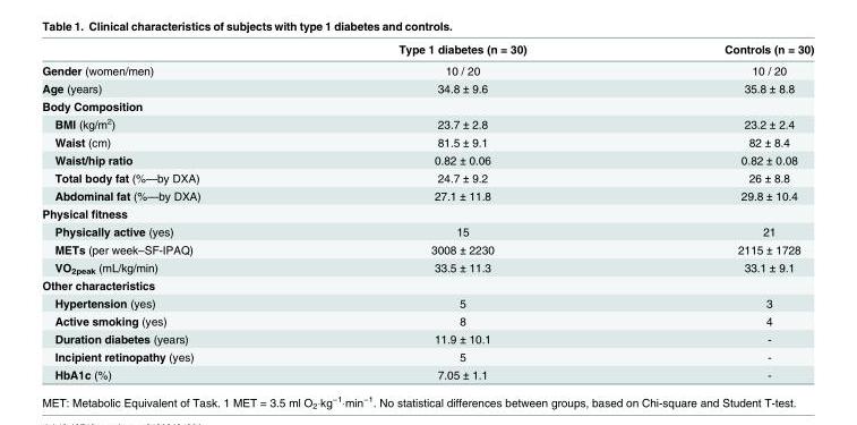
<table><thead><tr><td></td><td>Type 1 diabetes (n = 30)</td><td>Controls (n = 30)</td></tr></thead><tbody><tr><td>Gender (women/men)</td><td>10 / 20</td><td>10 / 20</td></tr><tr><td>Age (years)</td><td>34.8 ± 9.6</td><td>35.8 ± 8.8</td></tr><tr><td colspan="3">Body Composition</td></tr><tr><td>BMI (kg/m<sup>2</sup>)</td><td>23.7 ± 2.8</td><td>23.2 ± 2.4</td></tr><tr><td>Waist (cm)</td><td>81.5 ± 9.1</td><td>82 ± 8.4</td></tr><tr><td>Waist/hip ratio</td><td>0.82 ± 0.06</td><td>0.82 ± 0.08</td></tr><tr><td>Total body fat (%—by DXA)</td><td>24.7 ± 9.2</td><td>26 ± 8.8</td></tr><tr><td>Abdominal fat (%—by DXA)</td><td>27.1 ± 11.8</td><td>29.8 ± 10.4</td></tr><tr><td colspan="3">Physical fitness</td></tr><tr><td>Physically active (yes)</td><td>15</td><td>21</td></tr><tr><td>METs (per week–SF-IPAQ)</td><td>3008 ± 2230</td><td>2115 ± 1728</td></tr><tr><td>VO<sub>2peak</sub> (mL/kg/min)</td><td>33.5 ± 11.3</td><td>33.1 ± 9.1</td></tr><tr><td colspan="3">Other characteristics</td></tr><tr><td>Hypertension (yes)</td><td>5</td><td>3</td></tr><tr><td>Active smoking (yes)</td><td>8</td><td>4</td></tr><tr><td>Duration diabetes (years)</td><td>11.9 ± 10.1</td><td>-</td></tr><tr><td>Incipient retinopathy (yes)</td><td>5</td><td>-</td></tr><tr><td>HbA1c (%)</td><td>7.05 ± 1.1</td><td>-</td></tr></tbody></table>